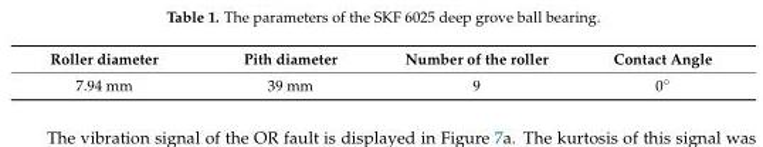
<table><thead><tr><td>Roller diameter</td><td>Pith diameter</td><td>Number of the roller</td><td>Contact Angle</td></tr></thead><tbody><tr><td>7.94 mm</td><td>39 mm</td><td>9</td><td>0◦</td></tr></tbody></table>